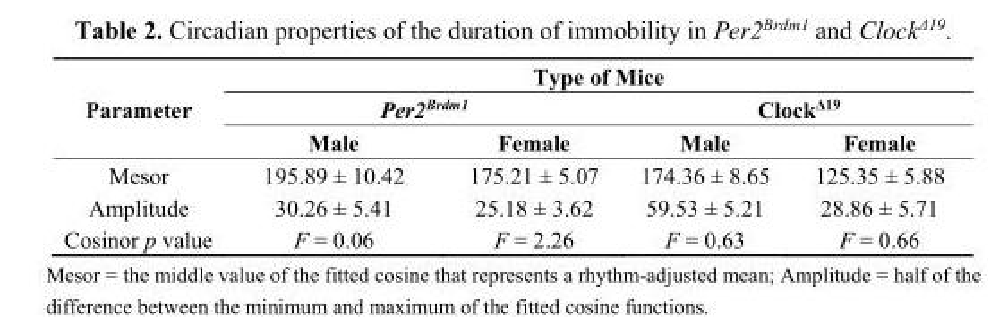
<table><thead><tr><td rowspan="3">Parameter</td><td colspan="4">Type of Mice</td></tr><tr><td colspan="2">Per2<sup>Brdm1</sup></td><td colspan="2">Clock<sup>Δ19</sup></td></tr><tr><td>Male</td><td>Female</td><td>Male</td><td>Female</td></tr></thead><tbody><tr><td>Mesor</td><td>195.89 ± 10.42</td><td>175.21 ± 5.07</td><td>174.36 ± 8.65</td><td>125.35 ± 5.88</td></tr><tr><td>Amplitude</td><td>30.26 ± 5.41</td><td>25.18 ± 3.62</td><td>59.53 ± 5.21</td><td>28.86 ± 5.71</td></tr><tr><td>Cosinor p value</td><td>F = 0.06</td><td>F = 2.26</td><td>F = 0.63</td><td>F = 0.66</td></tr></tbody></table>